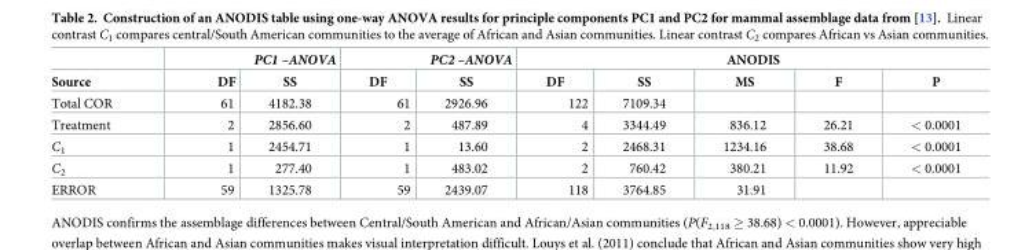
<table><thead><tr><td rowspan="2">Source</td><td colspan="2">PC1 –ANOVA</td><td colspan="2">PC2 –ANOVA</td><td colspan="5">ANODIS</td></tr><tr><td>DF</td><td>SS</td><td>DF</td><td>SS</td><td>DF</td><td>SS</td><td>MS</td><td>F</td><td>P</td></tr></thead><tbody><tr><td>Total COR</td><td>61</td><td>4182.38</td><td>61</td><td>2926.96</td><td>122</td><td>7109.34</td><td></td><td></td><td></td></tr><tr><td>Treatment</td><td>2</td><td>2856.60</td><td>2</td><td>487.89</td><td>4</td><td>3344.49</td><td>836.12</td><td>26.21</td><td>&lt; 0.0001</td></tr><tr><td>C<sub>1</sub></td><td>1</td><td>2454.71</td><td>1</td><td>13.60</td><td>2</td><td>2468.31</td><td>1234.16</td><td>38.68</td><td>&lt; 0.0001</td></tr><tr><td>C<sub>2</sub></td><td>1</td><td>277.40</td><td>1</td><td>483.02</td><td>2</td><td>760.42</td><td>380.21</td><td>11.92</td><td>&lt; 0.0001</td></tr><tr><td>ERROR</td><td>59</td><td>1325.78</td><td>59</td><td>2439.07</td><td>118</td><td>3764.85</td><td>31.91</td><td></td><td></td></tr></tbody></table>